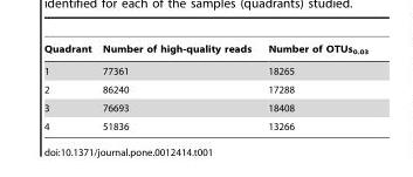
<table><thead><tr><td>Quadrant</td><td>Number of high-quality reads</td><td>Number of OTUs<sub>0.03</sub></td></tr></thead><tbody><tr><td>1</td><td>77361</td><td>18265</td></tr><tr><td>2</td><td>86240</td><td>17288</td></tr><tr><td>3</td><td>76693</td><td>18408</td></tr><tr><td>4</td><td>51836</td><td>13266</td></tr></tbody></table>